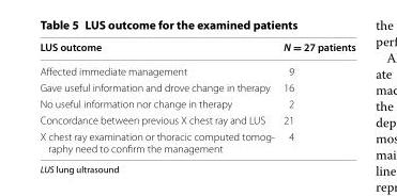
<table><thead><tr><td>LUS outcome</td><td>N = 27 patients</td></tr></thead><tbody><tr><td>Affected immediate management</td><td>9</td></tr><tr><td>Gave useful information and drove change in therapy</td><td>16</td></tr><tr><td>No useful information nor change in therapy</td><td>2</td></tr><tr><td>Concordance between previous X chest ray and LUS</td><td>21</td></tr><tr><td>X chest ray examination or thoracic computed tomog- raphy need to confirm the management</td><td>4</td></tr></tbody></table>